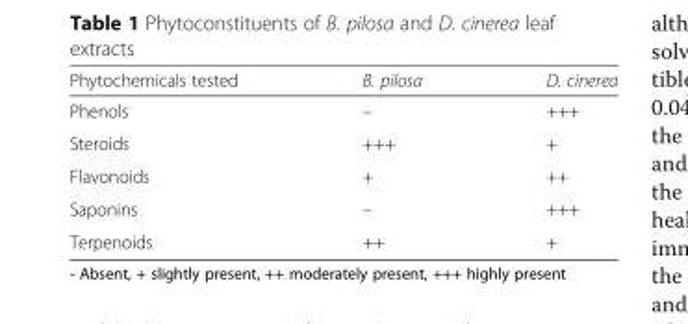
<table><thead><tr><td>Phytochemicals tested</td><td>B. pilosa</td><td>D. cinerea</td></tr></thead><tbody><tr><td>Phenols</td><td>–</td><td>+++</td></tr><tr><td>Steroids</td><td>+++</td><td>+</td></tr><tr><td>Flavonoids</td><td>+</td><td>++</td></tr><tr><td>Saponins</td><td>–</td><td>+++</td></tr><tr><td>Terpenoids</td><td>++</td><td>+</td></tr></tbody></table>